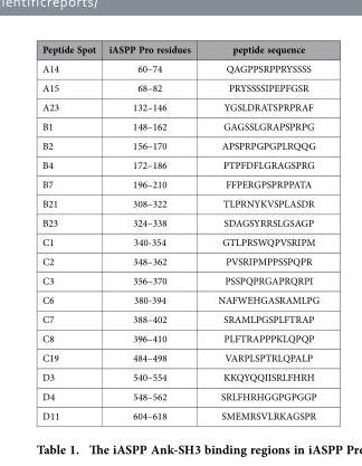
<table><thead><tr><td>Peptide Spot</td><td>iASPP Pro residues</td><td>peptide sequence</td></tr></thead><tbody><tr><td>A14</td><td>60–74</td><td>QAGPPSRPPRYSSSS</td></tr><tr><td>A15</td><td>68–82</td><td>PRYSSSSIPEPFGSR</td></tr><tr><td>A23</td><td>132–146</td><td>YGSLDRATSPRPRAF</td></tr><tr><td>B1</td><td>148–162</td><td>GAGSSLGRAPSPRPG</td></tr><tr><td>B2</td><td>156–170</td><td>APSPRPGPGPLRQQG</td></tr><tr><td>B4</td><td>172–186</td><td>PTPFDFLGRAGSPRG</td></tr><tr><td>B7</td><td>196–210</td><td>FFPERGPSPRPPATA</td></tr><tr><td>B21</td><td>308–322</td><td>TLPRNYKVSPLASDR</td></tr><tr><td>B23</td><td>324–338</td><td>SDAGSYRRSLGSAGP</td></tr><tr><td>C1</td><td>340-354</td><td>GTLPRSWQPVSRIPM</td></tr><tr><td>C2</td><td>348–362</td><td>PVSRIPMPPSSPQPR</td></tr><tr><td>C3</td><td>356–370</td><td>PSSPQPRGAPRQRPI</td></tr><tr><td>C6</td><td>380-394</td><td>NAFWEHGASRAMLPG</td></tr><tr><td>C7</td><td>388–402</td><td>SRAMLPGSPLFTRAP</td></tr><tr><td>C8</td><td>396–410</td><td>PLFTRAPPPKLQPQP</td></tr><tr><td>C19</td><td>484–498</td><td>VARPLSPTRLQPALP</td></tr><tr><td>D3</td><td>540–554</td><td>KKQYQQIISRLFHRH</td></tr><tr><td>D4</td><td>548–562</td><td>SRLFHRHGGPGPGGP</td></tr><tr><td>D11</td><td>604–618</td><td>SMEMRSVLRKAGSPR</td></tr></tbody></table>